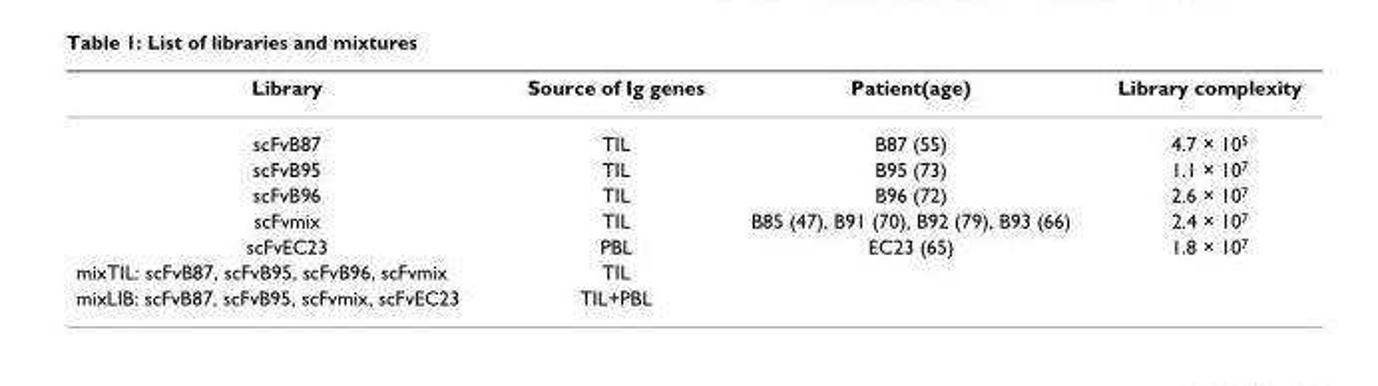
<table><thead><tr><td>Library</td><td>Source of Ig genes</td><td>Patient(age)</td><td>Library complexity</td></tr></thead><tbody><tr><td>scFvB87</td><td>TIL</td><td>B87 (55)</td><td>4.7 × 10<sup>5</sup></td></tr><tr><td>scFvB95</td><td>TIL</td><td>B95 (73)</td><td>1.1 × 10<sup>7</sup></td></tr><tr><td>scFvB96</td><td>TIL</td><td>B96 (72)</td><td>2.6 × 10<sup>7</sup></td></tr><tr><td>scFvmix</td><td>TIL</td><td>B85 (47), B91 (70), B92 (79), B93 (66)</td><td>2.4 × 10<sup>7</sup></td></tr><tr><td>scFvEC23</td><td>PBL</td><td>EC23 (65)</td><td>1.8 × 10<sup>7</sup></td></tr><tr><td>mixTIL: scFvB87, scFvB95, scFvB96, scFvmix</td><td>TIL</td><td></td><td></td></tr><tr><td>mixLIB: scFvB87, scFvB95, scFvmix, scFvEC23</td><td>TIL+PBL</td><td></td><td></td></tr></tbody></table>